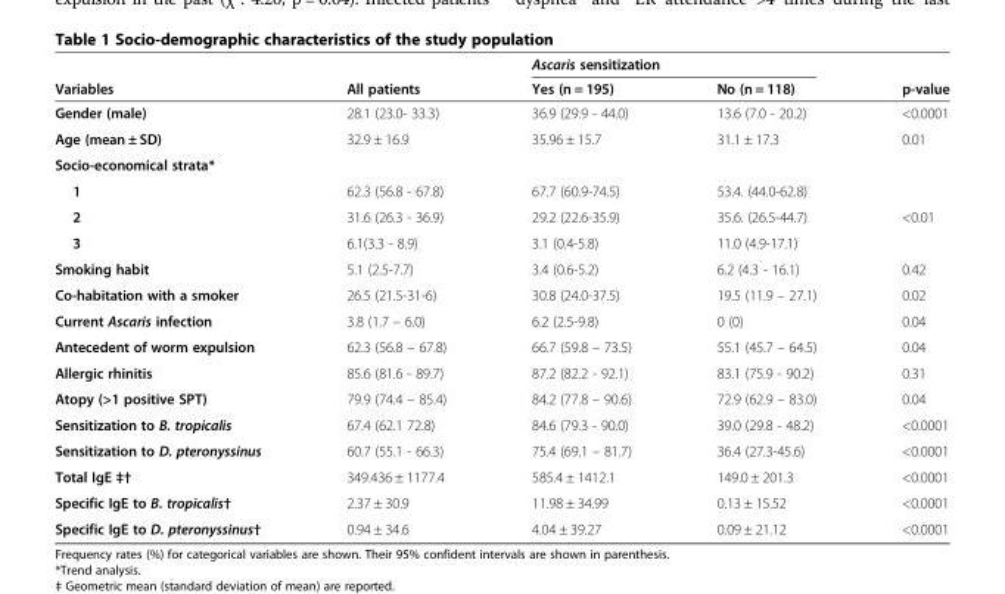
<table><thead><tr><td rowspan="2">Variables</td><td rowspan="2">All patients</td><td colspan="2">Ascaris sensitization</td><td rowspan="2">p-value</td></tr><tr><td>Yes (n = 195)</td><td>No (n = 118)</td></tr></thead><tbody><tr><td>Gender (male)</td><td>28.1 (23.0- 33.3)</td><td>36.9 (29.9 - 44.0)</td><td>13.6 (7.0 - 20.2)</td><td>&lt;0.0001</td></tr><tr><td>Age (mean ± SD)</td><td>32.9 ± 16.9</td><td>35.96 ± 15.7</td><td>31.1 ± 17.3</td><td>0.01</td></tr><tr><td colspan="5">Socio-economical strata*</td></tr><tr><td>1</td><td>62.3 (56.8 - 67.8)</td><td>67.7 (60.9-74.5)</td><td>53.4. (44.0-62.8)</td><td></td></tr><tr><td>2</td><td>31.6 (26.3 - 36.9)</td><td>29.2 (22.6-35.9)</td><td>35.6. (26.5-44.7)</td><td>&lt;0.01</td></tr><tr><td>3</td><td>6.1(3.3 - 8.9)</td><td>3.1 (0.4-5.8)</td><td>11.0 (4.9-17.1)</td><td></td></tr><tr><td>Smoking habit</td><td>5.1 (2.5-7.7)</td><td>3.4 (0.6-5.2)</td><td>6.2 (4.3 - 16.1)</td><td>0.42</td></tr><tr><td>Co-habitation with a smoker</td><td>26.5 (21.5-31-6)</td><td>30.8 (24.0-37.5)</td><td>19.5 (11.9 – 27.1)</td><td>0.02</td></tr><tr><td>Current Ascaris infection</td><td>3.8 (1.7 – 6.0)</td><td>6.2 (2.5-9.8)</td><td>0 (0)</td><td>0.04</td></tr><tr><td>Antecedent of worm expulsion</td><td>62.3 (56.8 – 67.8)</td><td>66.7 (59.8 – 73.5)</td><td>55.1 (45.7 – 64.5)</td><td>0.04</td></tr><tr><td>Allergic rhinitis</td><td>85.6 (81.6 - 89.7)</td><td>87.2 (82.2 - 92.1)</td><td>83.1 (75.9 - 90.2)</td><td>0.31</td></tr><tr><td>Atopy (&gt;1 positive SPT)</td><td>79.9 (74.4 – 85.4)</td><td>84.2 (77.8 – 90.6)</td><td>72.9 (62.9 – 83.0)</td><td>0.04</td></tr><tr><td>Sensitization to B. tropicalis</td><td>67.4 (62.1 72.8)</td><td>84.6 (79.3 - 90.0)</td><td>39.0 (29.8 - 48.2)</td><td>&lt;0.0001</td></tr><tr><td>Sensitization to D. pteronyssinus</td><td>60.7 (55.1 - 66.3)</td><td>75.4 (69.1 – 81.7)</td><td>36.4 (27.3-45.6)</td><td>&lt;0.0001</td></tr><tr><td>Total IgE ‡†</td><td>349.436 ± 1177.4</td><td>585.4 ± 1412.1</td><td>149.0 ± 201.3</td><td>&lt;0.0001</td></tr><tr><td>Specific IgE to B. tropicalis†</td><td>2.37 ± 30.9</td><td>11.98 ± 34.99</td><td>0.13 ± 15.52</td><td>&lt;0.0001</td></tr><tr><td>Specific IgE to D. pteronyssinus†</td><td>0.94 ± 34.6</td><td>4.04 ± 39.27</td><td>0.09 ± 21.12</td><td>&lt;0.0001</td></tr></tbody></table>